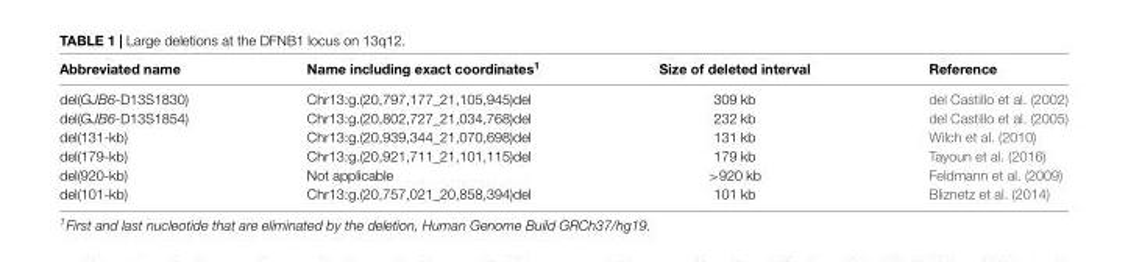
<table><thead><tr><td>Abbreviated name</td><td>Name including exact coordinates<sup>1</sup></td><td>Size of deleted interval</td><td>Reference</td></tr></thead><tbody><tr><td>del(GJB6-D13S1830)</td><td>Chr13:g.(20,797,177_21,105,945)del</td><td>309 kb</td><td>del Castillo et al. (2002)</td></tr><tr><td>del(GJB6-D13S1854)</td><td>Chr13:g.(20,802,727_21,034,768)del</td><td>232 kb</td><td>del Castillo et al. (2005)</td></tr><tr><td>del(131-kb)</td><td>Chr13:g.(20,939,344_21,070,698)del</td><td>131 kb</td><td>Wilch et al. (2010)</td></tr><tr><td>del(179-kb)</td><td>Chr13:g.(20,921,711_21,101,115)del</td><td>179 kb</td><td>Tayoun et al. (2016)</td></tr><tr><td>del(920-kb)</td><td>Not applicable</td><td>&gt;920 kb</td><td>Feldmann et al. (2009)</td></tr><tr><td>del(101-kb)</td><td>Chr13:g.(20,757,021_20,858,394)del</td><td>101 kb</td><td>Bliznetz et al. (2014)</td></tr></tbody></table>